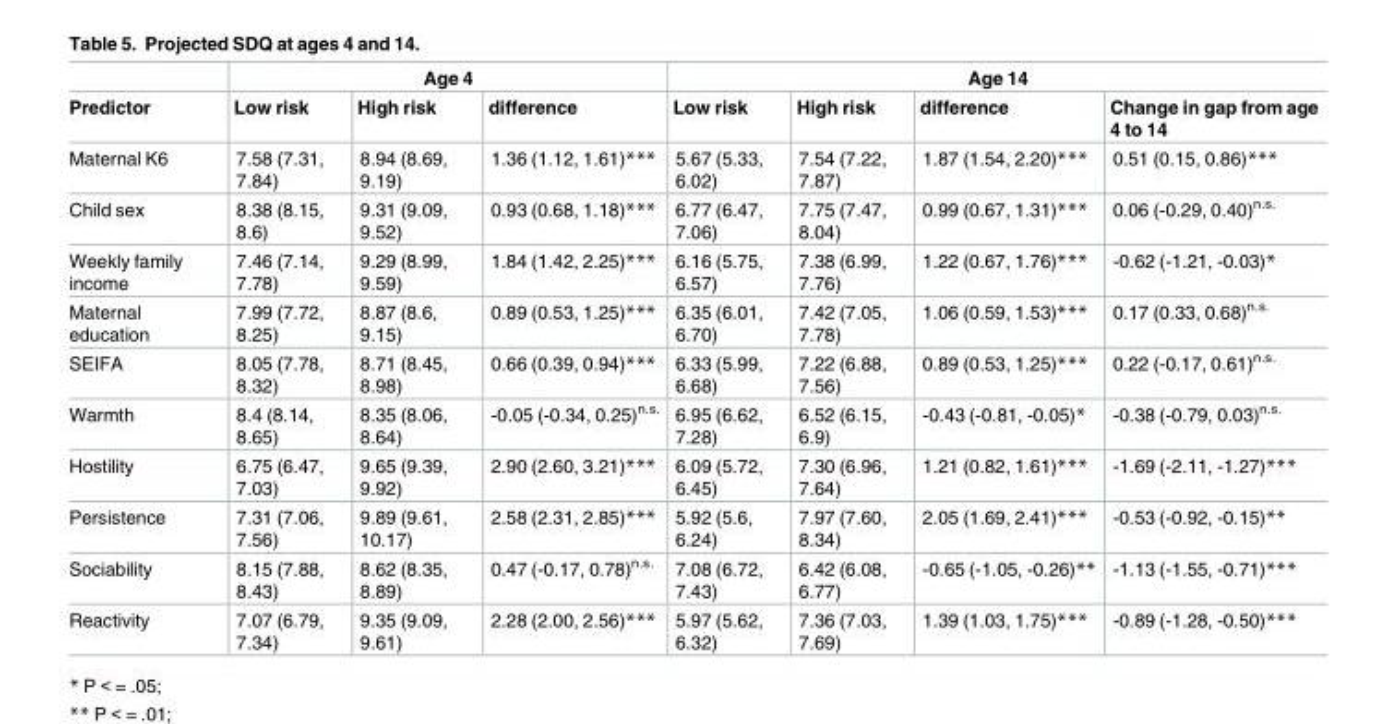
<table><thead><tr><td rowspan="2">Predictor</td><td colspan="3">Age 4</td><td colspan="4">Age 14</td></tr><tr><td>Low risk</td><td>High risk</td><td>difference</td><td>Low risk</td><td>High risk</td><td>difference</td><td>Change in gap from age 4 to 14</td></tr></thead><tbody><tr><td>Maternal K6</td><td>7.58 (7.31, 7.84)</td><td>8.94 (8.69, 9.19)</td><td>1.36 (1.12, 1.61)***</td><td>5.67 (5.33, 6.02)</td><td>7.54 (7.22, 7.87)</td><td>1.87 (1.54, 2.20)***</td><td>0.51 (0.15, 0.86)***</td></tr><tr><td>Child sex</td><td>8.38 (8.15, 8.6)</td><td>9.31 (9.09, 9.52)</td><td>0.93 (0.68, 1.18)***</td><td>6.77 (6.47, 7.06)</td><td>7.75 (7.47, 8.04)</td><td>0.99 (0.67, 1.31)***</td><td>0.06 (-0.29, 0.40)<sup>n.s.</sup></td></tr><tr><td>Weekly family income</td><td>7.46 (7.14, 7.78)</td><td>9.29 (8.99, 9.59)</td><td>1.84 (1.42, 2.25)***</td><td>6.16 (5.75, 6.57)</td><td>7.38 (6.99, 7.76)</td><td>1.22 (0.67, 1.76)***</td><td>-0.62 (-1.21, -0.03)*</td></tr><tr><td>Maternal education</td><td>7.99 (7.72, 8.25)</td><td>8.87 (8.6, 9.15)</td><td>0.89 (0.53, 1.25)***</td><td>6.35 (6.01, 6.70)</td><td>7.42 (7.05, 7.78)</td><td>1.06 (0.59, 1.53)***</td><td>0.17 (0.33, 0.68)<sup>n.s.</sup></td></tr><tr><td>SEIFA</td><td>8.05 (7.78, 8.32)</td><td>8.71 (8.45, 8.98)</td><td>0.66 (0.39, 0.94)***</td><td>6.33 (5.99, 6.68)</td><td>7.22 (6.88, 7.56)</td><td>0.89 (0.53, 1.25)***</td><td>0.22 (-0.17, 0.61)<sup>n.s.</sup></td></tr><tr><td>Warmth</td><td>8.4 (8.14, 8.65)</td><td>8.35 (8.06, 8.64)</td><td>-0.05 (-0.34, 0.25)<sup>n.s.</sup></td><td>6.95 (6.62, 7.28)</td><td>6.52 (6.15, 6.9)</td><td>-0.43 (-0.81, -0.05)*</td><td>-0.38 (-0.79, 0.03)<sup>n.s.</sup></td></tr><tr><td>Hostility</td><td>6.75 (6.47, 7.03)</td><td>9.65 (9.39, 9.92)</td><td>2.90 (2.60, 3.21)***</td><td>6.09 (5.72, 6.45)</td><td>7.30 (6.96, 7.64)</td><td>1.21 (0.82, 1.61)***</td><td>-1.69 (-2.11, -1.27)***</td></tr><tr><td>Persistence</td><td>7.31 (7.06, 7.56)</td><td>9.89 (9.61, 10.17)</td><td>2.58 (2.31, 2.85)***</td><td>5.92 (5.6, 6.24)</td><td>7.97 (7.60, 8.34)</td><td>2.05 (1.69, 2.41)***</td><td>-0.53 (-0.92, -0.15)**</td></tr><tr><td>Sociability</td><td>8.15 (7.88, 8.43)</td><td>8.62 (8.35, 8.89)</td><td>0.47 (-0.17, 0.78)<sup>n.s.</sup></td><td>7.08 (6.72, 7.43)</td><td>6.42 (6.08, 6.77)</td><td>-0.65 (-1.05, -0.26)**</td><td>-1.13 (-1.55, -0.71)***</td></tr><tr><td>Reactivity</td><td>7.07 (6.79, 7.34)</td><td>9.35 (9.09, 9.61)</td><td>2.28 (2.00, 2.56)***</td><td>5.97 (5.62, 6.32)</td><td>7.36 (7.03, 7.69)</td><td>1.39 (1.03, 1.75)***</td><td>-0.89 (-1.28, -0.50)***</td></tr></tbody></table>